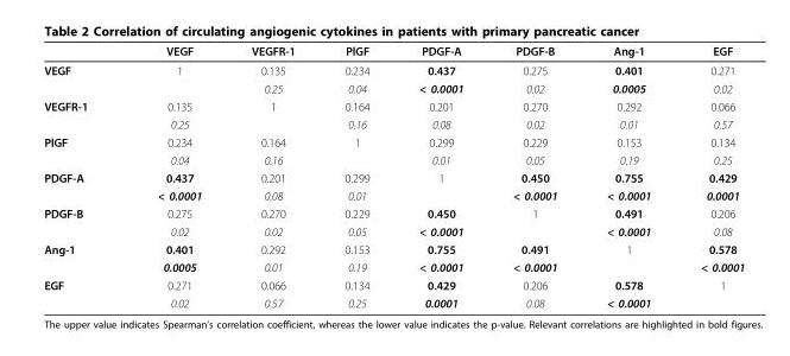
<table><thead><tr><td></td><td>VEGF</td><td>VEGFR-1</td><td>PlGF</td><td>PDGF-A</td><td>PDGF-B</td><td>Ang-1</td><td>EGF</td></tr></thead><tbody><tr><td rowspan="2">VEGF</td><td>1</td><td>0.135</td><td>0.234</td><td>0.437</td><td>0.275</td><td>0.401</td><td>0.271</td></tr><tr><td></td><td>0.25</td><td>0.04</td><td>&lt; 0.0001</td><td>0.02</td><td>0.0005</td><td>0.02</td></tr><tr><td rowspan="2">VEGFR-1</td><td>0.135</td><td>1</td><td>0.164</td><td>0.201</td><td>0.270</td><td>0.292</td><td>0.066</td></tr><tr><td>0.25</td><td></td><td>0.16</td><td>0.08</td><td>0.02</td><td>0.01</td><td>0.57</td></tr><tr><td rowspan="2">PlGF</td><td>0.234</td><td>0.164</td><td>1</td><td>0.299</td><td>0.229</td><td>0.153</td><td>0.134</td></tr><tr><td>0.04</td><td>0.16</td><td></td><td>0.01</td><td>0.05</td><td>0.19</td><td>0.25</td></tr><tr><td rowspan="2">PDGF-A</td><td>0.437</td><td>0.201</td><td>0.299</td><td>1</td><td>0.450</td><td>0.755</td><td>0.429</td></tr><tr><td>&lt; 0.0001</td><td>0.08</td><td>0.01</td><td></td><td>&lt; 0.0001</td><td>&lt; 0.0001</td><td>0.0001</td></tr><tr><td rowspan="2">PDGF-B</td><td>0.275</td><td>0.270</td><td>0.229</td><td>0.450</td><td>1</td><td>0.491</td><td>0.206</td></tr><tr><td>0.02</td><td>0.02</td><td>0.05</td><td>&lt; 0.0001</td><td></td><td>&lt; 0.0001</td><td>0.08</td></tr><tr><td rowspan="2">Ang-1</td><td>0.401</td><td>0.292</td><td>0.153</td><td>0.755</td><td>0.491</td><td>1</td><td>0.578</td></tr><tr><td>0.0005</td><td>0.01</td><td>0.19</td><td>&lt; 0.0001</td><td>&lt; 0.0001</td><td></td><td>&lt; 0.0001</td></tr><tr><td rowspan="2">EGF</td><td>0.271</td><td>0.066</td><td>0.134</td><td>0.429</td><td>0.206</td><td>0.578</td><td>1</td></tr><tr><td>0.02</td><td>0.57</td><td>0.25</td><td>0.0001</td><td>0.08</td><td>&lt; 0.0001</td><td></td></tr></tbody></table>